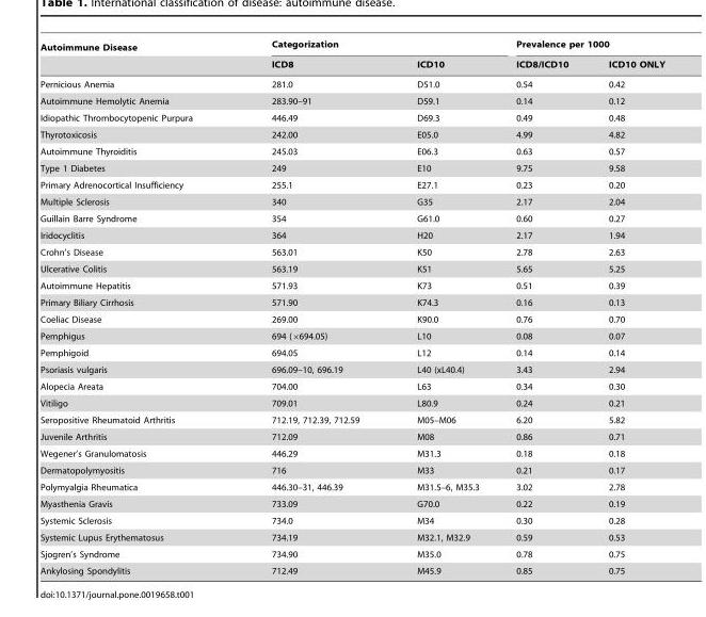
<table><thead><tr><td rowspan="2">Autoimmune Disease</td><td colspan="2">Categorization</td><td colspan="2">Prevalence per 1000</td></tr><tr><td>ICD8</td><td>ICD10</td><td>ICD8/ICD10</td><td>ICD10 ONLY</td></tr></thead><tbody><tr><td>Pernicious Anemia</td><td>281.0</td><td>D51.0</td><td>0.54</td><td>0.42</td></tr><tr><td>Autoimmune Hemolytic Anemia</td><td>283.90–91</td><td>D59.1</td><td>0.14</td><td>0.12</td></tr><tr><td>Idiopathic Thrombocytopenic Purpura</td><td>446.49</td><td>D69.3</td><td>0.49</td><td>0.48</td></tr><tr><td>Thyrotoxicosis</td><td>242.00</td><td>E05.0</td><td>4.99</td><td>4.82</td></tr><tr><td>Autoimmune Thyroiditis</td><td>245.03</td><td>E06.3</td><td>0.63</td><td>0.57</td></tr><tr><td>Type 1 Diabetes</td><td>249</td><td>E10</td><td>9.75</td><td>9.58</td></tr><tr><td>Primary Adrenocortical Insufficiency</td><td>255.1</td><td>E27.1</td><td>0.23</td><td>0.20</td></tr><tr><td>Multiple Sclerosis</td><td>340</td><td>G35</td><td>2.17</td><td>2.04</td></tr><tr><td>Guillain Barre Syndrome</td><td>354</td><td>G61.0</td><td>0.60</td><td>0.27</td></tr><tr><td>Iridocyclitis</td><td>364</td><td>H20</td><td>2.17</td><td>1.94</td></tr><tr><td>Crohn’s Disease</td><td>563.01</td><td>K50</td><td>2.78</td><td>2.63</td></tr><tr><td>Ulcerative Colitis</td><td>563.19</td><td>K51</td><td>5.65</td><td>5.25</td></tr><tr><td>Autoimmune Hepatitis</td><td>571.93</td><td>K73</td><td>0.51</td><td>0.39</td></tr><tr><td>Primary Biliary Cirrhosis</td><td>571.90</td><td>K74.3</td><td>0.16</td><td>0.13</td></tr><tr><td>Coeliac Disease</td><td>269.00</td><td>K90.0</td><td>0.76</td><td>0.70</td></tr><tr><td>Pemphigus</td><td>694 (×694.05)</td><td>L10</td><td>0.08</td><td>0.07</td></tr><tr><td>Pemphigoid</td><td>694.05</td><td>L12</td><td>0.14</td><td>0.14</td></tr><tr><td>Psoriasis vulgaris</td><td>696.09–10, 696.19</td><td>L40 (xL40.4)</td><td>3.43</td><td>2.94</td></tr><tr><td>Alopecia Areata</td><td>704.00</td><td>L63</td><td>0.34</td><td>0.30</td></tr><tr><td>Vitiligo</td><td>709.01</td><td>L80.9</td><td>0.24</td><td>0.21</td></tr><tr><td>Seropositive Rheumatoid Arthritis</td><td>712.19, 712.39, 712.59</td><td>M05–M06</td><td>6.20</td><td>5.82</td></tr><tr><td>Juvenile Arthritis</td><td>712.09</td><td>M08</td><td>0.86</td><td>0.71</td></tr><tr><td>Wegener’s Granulomatosis</td><td>446.29</td><td>M31.3</td><td>0.18</td><td>0.18</td></tr><tr><td>Dermatopolymyositis</td><td>716</td><td>M33</td><td>0.21</td><td>0.17</td></tr><tr><td>Polymyalgia Rheumatica</td><td>446.30–31, 446.39</td><td>M31.5–6, M35.3</td><td>3.02</td><td>2.78</td></tr><tr><td>Myasthenia Gravis</td><td>733.09</td><td>G70.0</td><td>0.22</td><td>0.19</td></tr><tr><td>Systemic Sclerosis</td><td>734.0</td><td>M34</td><td>0.30</td><td>0.28</td></tr><tr><td>Systemic Lupus Erythematosus</td><td>734.19</td><td>M32.1, M32.9</td><td>0.59</td><td>0.53</td></tr><tr><td>Sjogren’s Syndrome</td><td>734.90</td><td>M35.0</td><td>0.78</td><td>0.75</td></tr><tr><td>Ankylosing Spondylitis</td><td>712.49</td><td>M45.9</td><td>0.85</td><td>0.75</td></tr></tbody></table>